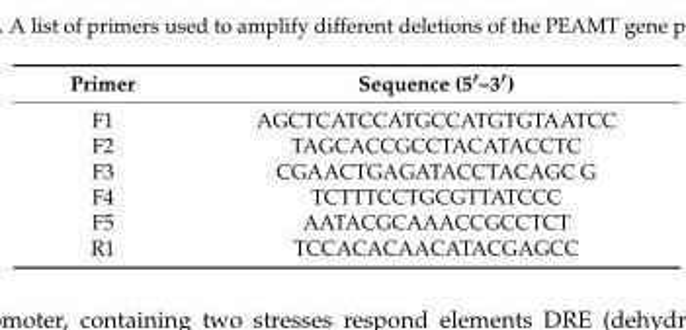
<table><thead><tr><td>Primer</td><td>Sequence (5′–3′)</td></tr></thead><tbody><tr><td>F1</td><td>AGCTCATCCATGCCATGTGTAATCC</td></tr><tr><td>F2</td><td>TAGCACCGCCTACATACCTC</td></tr><tr><td>F3</td><td>CGAACTGAGATACCTACAGC G</td></tr><tr><td>F4</td><td>TCTTTCCTGCGTTATCCC</td></tr><tr><td>F5</td><td>AATACGCAAACCGCCTCT</td></tr><tr><td>R1</td><td>TCCACACAACATACGAGCC</td></tr></tbody></table>